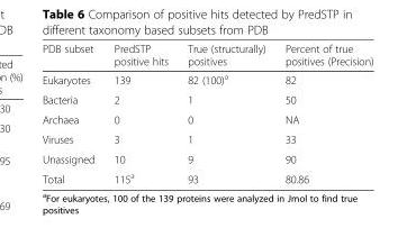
<table><thead><tr><td>PDB subset</td><td>PredSTP positive hits</td><td>True (structurally) positives</td><td>Percent of true positives (Precision)</td></tr></thead><tbody><tr><td>Eukaryotes</td><td>139</td><td>82 (100)<sup>a</sup></td><td>82</td></tr><tr><td>Bacteria</td><td>2</td><td>1</td><td>50</td></tr><tr><td>Archaea</td><td>0</td><td>0</td><td>NA</td></tr><tr><td>Viruses</td><td>3</td><td>1</td><td>33</td></tr><tr><td>Unassigned</td><td>10</td><td>9</td><td>90</td></tr><tr><td>Total</td><td>115<sup>a</sup></td><td>93</td><td>80.86</td></tr></tbody></table>